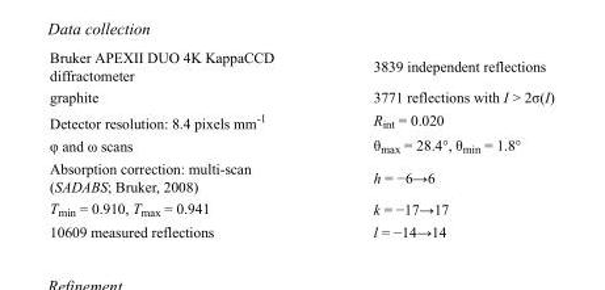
<table><tbody><tr><td>Bruker APEXII DUO 4K KappaCCD diffractometer</td><td>3839 independent reflections</td></tr><tr><td>graphite</td><td>3771 reflections with I &gt; 2σ(I)</td></tr><tr><td>Detector resolution: 8.4 pixels mm<sup>-1</sup></td><td>R<sub>int</sub> = 0.020</td></tr><tr><td>φ and ω scans</td><td>θ<sub>max</sub> = 28.4°, θ<sub>min</sub> = 1.8°</td></tr><tr><td>Absorption correction: multi-scan (SADABS; Bruker, 2008)</td><td>h = −6→6</td></tr><tr><td>T<sub>min</sub> = 0.910, T<sub>max</sub> = 0.941</td><td>k = −17→17</td></tr><tr><td>10609 measured reflections</td><td>l = −14→14</td></tr></tbody></table>